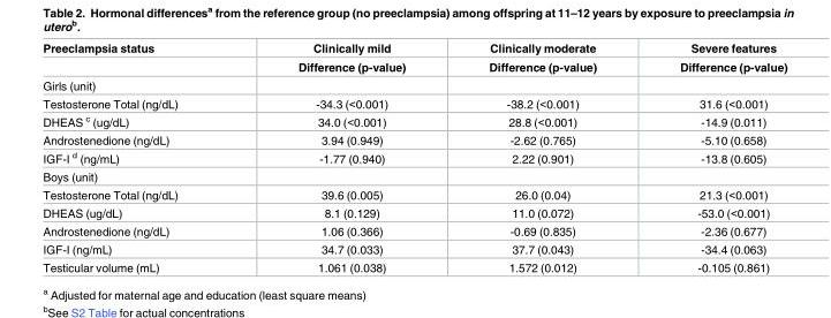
<table><thead><tr><td rowspan="2">Preeclampsia status</td><td rowspan="2">Clinically mild Difference (p-value)</td><td rowspan="2">Clinically moderate Difference (p-value)</td><td rowspan="2">Severe features Difference (p-value)</td></tr><tr></tr></thead><tbody><tr><td colspan="4">Girls (unit)</td></tr><tr><td>Testosterone Total (ng/dL)</td><td>-34.3 (&lt;0.001)</td><td>-38.2 (&lt;0.001)</td><td>31.6 (&lt;0.001)</td></tr><tr><td>DHEAS <sup>c</sup> (ug/dL)</td><td>34.0 (&lt;0.001)</td><td>28.8 (&lt;0.001)</td><td>-14.9 (0.011)</td></tr><tr><td>Androstenedione (ng/dL)</td><td>3.94 (0.949)</td><td>-2.62 (0.765)</td><td>-5.10 (0.658)</td></tr><tr><td>IGF-I <sup>d</sup> (ng/mL)</td><td>-1.77 (0.940)</td><td>2.22 (0.901)</td><td>-13.8 (0.605)</td></tr><tr><td colspan="4">Boys (unit)</td></tr><tr><td>Testosterone Total (ng/dL)</td><td>39.6 (0.005)</td><td>26.0 (0.04)</td><td>21.3 (&lt;0.001)</td></tr><tr><td>DHEAS (ug/dL)</td><td>8.1 (0.129)</td><td>11.0 (0.072)</td><td>-53.0 (&lt;0.001)</td></tr><tr><td>Androstenedione (ng/dL)</td><td>1.06 (0.366)</td><td>-0.69 (0.835)</td><td>-2.36 (0.677)</td></tr><tr><td>IGF-I (ng/mL)</td><td>34.7 (0.033)</td><td>37.7 (0.043)</td><td>-34.4 (0.063)</td></tr><tr><td>Testicular volume (mL)</td><td>1.061 (0.038)</td><td>1.572 (0.012)</td><td>-0.105 (0.861)</td></tr></tbody></table>